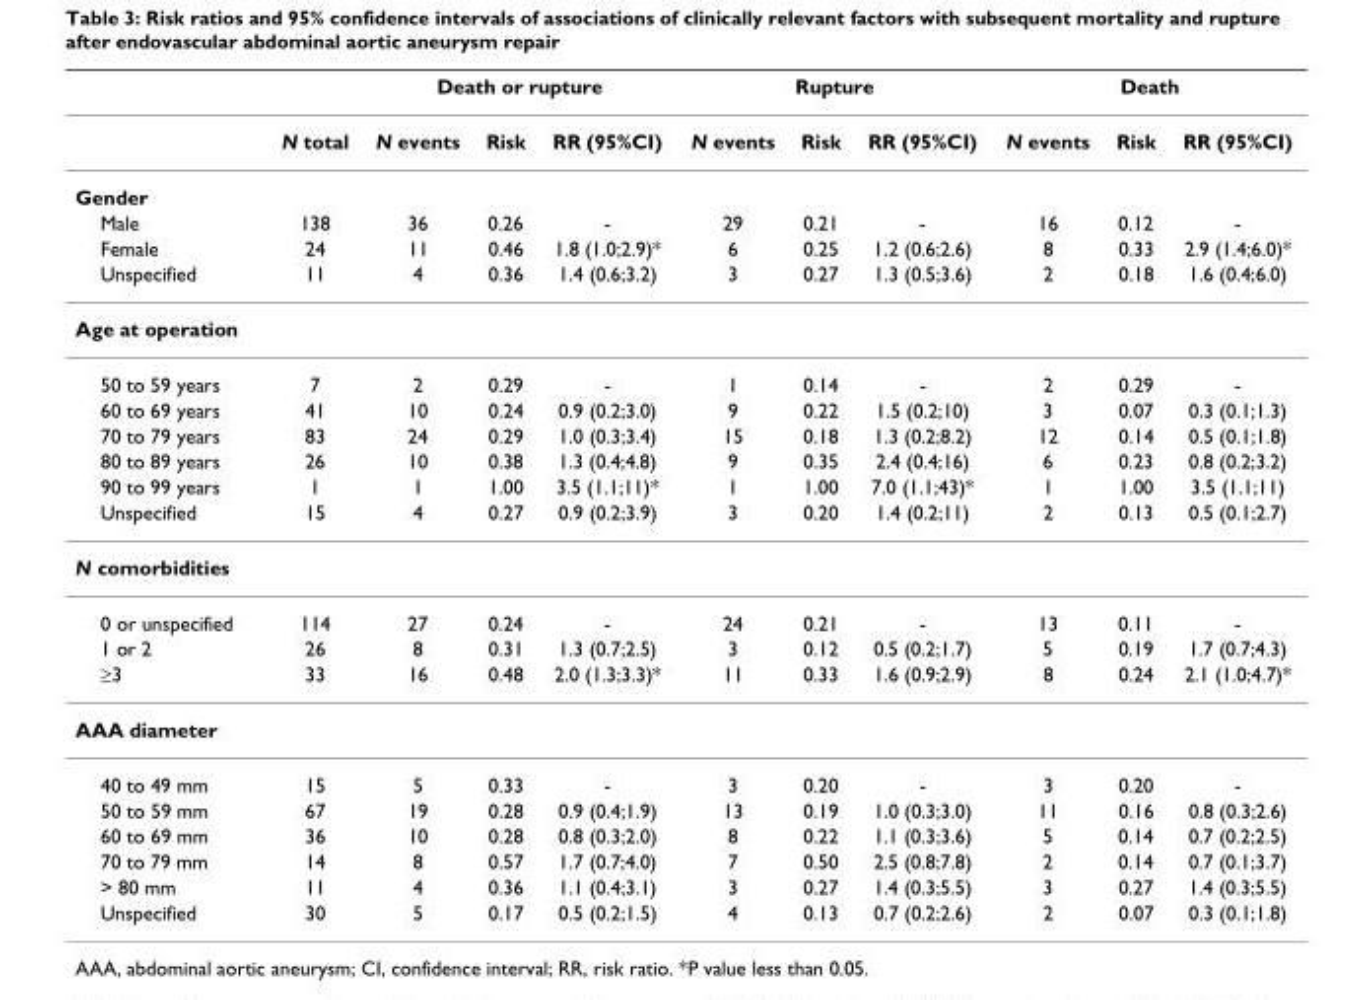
<table><thead><tr><td rowspan="2"></td><td rowspan="2">N total</td><td colspan="3">Death or rupture</td><td colspan="3">Rupture</td><td colspan="3">Death</td></tr><tr><td>N events</td><td>Risk</td><td>RR (95%CI)</td><td>N events</td><td>Risk</td><td>RR (95%CI)</td><td>N events</td><td>Risk</td><td>RR (95%CI)</td></tr></thead><tbody><tr><td colspan="11">Gender</td></tr><tr><td>Male</td><td>138</td><td>36</td><td>0.26</td><td>-</td><td>29</td><td>0.21</td><td>-</td><td>16</td><td>0.12</td><td>-</td></tr><tr><td>Female</td><td>24</td><td>11</td><td>0.46</td><td>1.8 (1.0;2.9)*</td><td>6</td><td>0.25</td><td>1.2 (0.6;2.6)</td><td>8</td><td>0.33</td><td>2.9 (1.4;6.0)*</td></tr><tr><td>Unspecified</td><td>11</td><td>4</td><td>0.36</td><td>1.4 (0.6;3.2)</td><td>3</td><td>0.27</td><td>1.3 (0.5;3.6)</td><td>2</td><td>0.18</td><td>1.6 (0.4;6.0)</td></tr><tr><td colspan="11">Age at operation</td></tr><tr><td>50 to 59 years</td><td>7</td><td>2</td><td>0.29</td><td>-</td><td>1</td><td>0.14</td><td>-</td><td>2</td><td>0.29</td><td>-</td></tr><tr><td>60 to 69 years</td><td>41</td><td>10</td><td>0.24</td><td>0.9 (0.2;3.0)</td><td>9</td><td>0.22</td><td>1.5 (0.2;10)</td><td>3</td><td>0.07</td><td>0.3 (0.1;1.3)</td></tr><tr><td>70 to 79 years</td><td>83</td><td>24</td><td>0.29</td><td>1.0 (0.3;3.4)</td><td>15</td><td>0.18</td><td>1.3 (0.2;8.2)</td><td>12</td><td>0.14</td><td>0.5 (0.1;1.8)</td></tr><tr><td>80 to 89 years</td><td>26</td><td>10</td><td>0.38</td><td>1.3 (0.4;4.8)</td><td>9</td><td>0.35</td><td>2.4 (0.4;16)</td><td>6</td><td>0.23</td><td>0.8 (0.2;3.2)</td></tr><tr><td>90 to 99 years</td><td>1</td><td>1</td><td>1.00</td><td>3.5 (1.1;11)*</td><td>1</td><td>1.00</td><td>7.0 (1.1;43)*</td><td>1</td><td>1.00</td><td>3.5 (1.1;11)</td></tr><tr><td>Unspecified</td><td>15</td><td>4</td><td>0.27</td><td>0.9 (0.2;3.9)</td><td>3</td><td>0.20</td><td>1.4 (0.2;11)</td><td>2</td><td>0.13</td><td>0.5 (0.1;2.7)</td></tr><tr><td colspan="11">N comorbidities</td></tr><tr><td>0 or unspecified</td><td>114</td><td>27</td><td>0.24</td><td>-</td><td>24</td><td>0.21</td><td>-</td><td>13</td><td>0.11</td><td>-</td></tr><tr><td>1 or 2</td><td>26</td><td>8</td><td>0.31</td><td>1.3 (0.7;2.5)</td><td>3</td><td>0.12</td><td>0.5 (0.2;1.7)</td><td>5</td><td>0.19</td><td>1.7 (0.7;4.3)</td></tr><tr><td>≥3</td><td>33</td><td>16</td><td>0.48</td><td>2.0 (1.3;3.3)*</td><td>11</td><td>0.33</td><td>1.6 (0.9;2.9)</td><td>8</td><td>0.24</td><td>2.1 (1.0;4.7)*</td></tr><tr><td colspan="11">AAA diameter</td></tr><tr><td>40 to 49 mm</td><td>15</td><td>5</td><td>0.33</td><td>-</td><td>3</td><td>0.20</td><td>-</td><td>3</td><td>0.20</td><td>-</td></tr><tr><td>50 to 59 mm</td><td>67</td><td>19</td><td>0.28</td><td>0.9 (0.4;1.9)</td><td>13</td><td>0.19</td><td>1.0 (0.3;3.0)</td><td>11</td><td>0.16</td><td>0.8 (0.3;2.6)</td></tr><tr><td>60 to 69 mm</td><td>36</td><td>10</td><td>0.28</td><td>0.8 (0.3;2.0)</td><td>8</td><td>0.22</td><td>1.1 (0.3;3.6)</td><td>5</td><td>0.14</td><td>0.7 (0.2;2.5)</td></tr><tr><td>70 to 79 mm</td><td>14</td><td>8</td><td>0.57</td><td>1.7 (0.7;4.0)</td><td>7</td><td>0.50</td><td>2.5 (0.8;7.8)</td><td>2</td><td>0.14</td><td>0.7 (0.1;3.7)</td></tr><tr><td>&gt; 80 mm</td><td>11</td><td>4</td><td>0.36</td><td>1.1 (0.4;3.1)</td><td>3</td><td>0.27</td><td>1.4 (0.3;5.5)</td><td>3</td><td>0.27</td><td>1.4 (0.3;5.5)</td></tr><tr><td>Unspecified</td><td>30</td><td>5</td><td>0.17</td><td>0.5 (0.2;1.5)</td><td>4</td><td>0.13</td><td>0.7 (0.2;2.6)</td><td>2</td><td>0.07</td><td>0.3 (0.1;1.8)</td></tr></tbody></table>